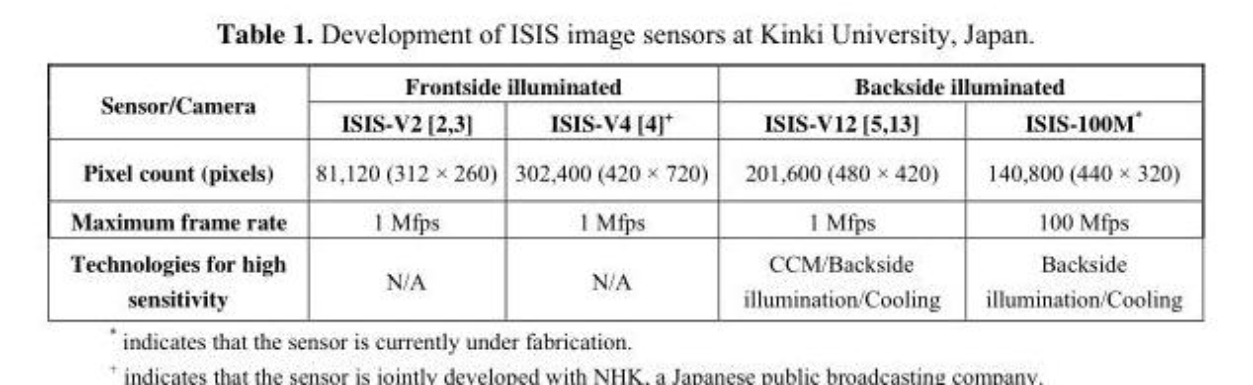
<table><thead><tr><td rowspan="2">Sensor/Camera</td><td colspan="2">Frontside illuminated</td><td colspan="2">Backside illuminated</td></tr><tr><td>ISIS-V2 [2,3]</td><td>ISIS-V4 [4]<sup>+</sup></td><td>ISIS-V12 [5,13]</td><td>ISIS-100M*</td></tr></thead><tbody><tr><td>Pixel count (pixels)</td><td>81,120 (312 × 260)</td><td>302,400 (420 × 720)</td><td>201,600 (480 × 420)</td><td>140,800 (440 × 320)</td></tr><tr><td>Maximum frame rate</td><td>1 Mfps</td><td>1 Mfps</td><td>1 Mfps</td><td>100 Mfps</td></tr><tr><td>Technologies for high sensitivity</td><td>N/A</td><td>N/A</td><td>CCM/Backside illumination/Cooling</td><td>Backside illumination/Cooling</td></tr></tbody></table>